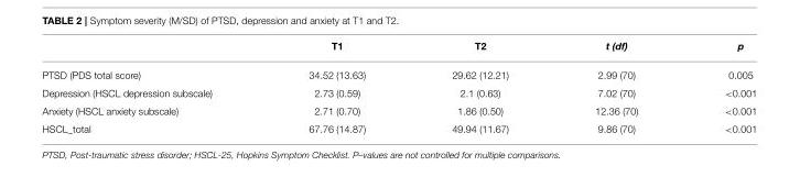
<table><thead><tr><td></td><td>T1</td><td>T2</td><td>t (df)</td><td>p</td></tr></thead><tbody><tr><td>PTSD (PDS total score)</td><td>34.52 (13.63)</td><td>29.62 (12.21)</td><td>2.99 (70)</td><td>0.005</td></tr><tr><td>Depression (HSCL depression subscale)</td><td>2.73 (0.59)</td><td>2.1 (0.63)</td><td>7.02 (70)</td><td>&lt;0.001</td></tr><tr><td>Anxiety (HSCL anxiety subscale)</td><td>2.71 (0.70)</td><td>1.86 (0.50)</td><td>12.36 (70)</td><td>&lt;0.001</td></tr><tr><td>HSCL_total</td><td>67.76 (14.87)</td><td>49.94 (11.67)</td><td>9.86 (70)</td><td>&lt;0.001</td></tr></tbody></table>